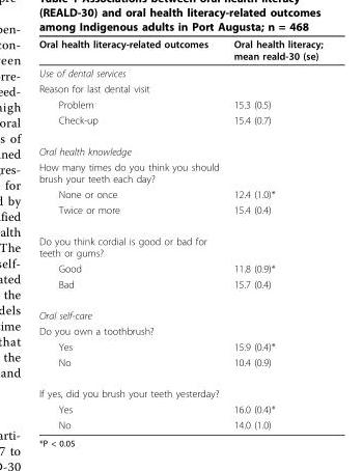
<table><thead><tr><td>Oral health literacy-related outcomes</td><td>Oral health literacy; mean reald-30 (se)</td></tr></thead><tbody><tr><td colspan="2">Use of dental services</td></tr><tr><td colspan="2">Reason for last dental visit</td></tr><tr><td>Problem</td><td>15.3 (0.5)</td></tr><tr><td>Check-up</td><td>15.4 (0.7)</td></tr><tr><td colspan="2">Oral health knowledge</td></tr><tr><td colspan="2">How many times do you think you should brush your teeth each day?</td></tr><tr><td>None or once</td><td>12.4 (1.0)*</td></tr><tr><td>Twice or more</td><td>15.4 (0.4)</td></tr><tr><td colspan="2">Do you think cordial is good or bad for teeth or gums?</td></tr><tr><td>Good</td><td>11.8 (0.9)*</td></tr><tr><td>Bad</td><td>15.7 (0.4)</td></tr><tr><td colspan="2">Oral self-care</td></tr><tr><td colspan="2">Do you own a toothbrush?</td></tr><tr><td>Yes</td><td>15.9 (0.4)*</td></tr><tr><td>No</td><td>10.4 (0.9)</td></tr><tr><td colspan="2">If yes, did you brush your teeth yesterday?</td></tr><tr><td>Yes</td><td>16.0 (0.4)*</td></tr><tr><td>No</td><td>14.0 (1.0)</td></tr></tbody></table>